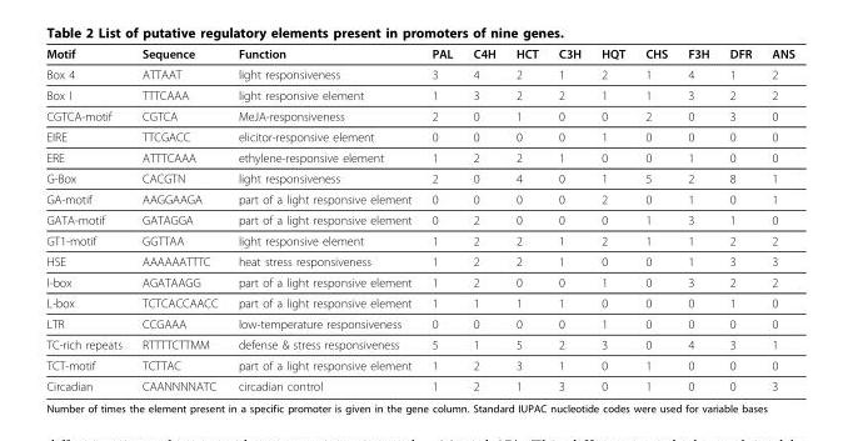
<table><thead><tr><td>Motif</td><td>Sequence</td><td>Function</td><td>PAL</td><td>C4H</td><td>HCT</td><td>C3H</td><td>HQT</td><td>CHS</td><td>F3H</td><td>DFR</td><td>ANS</td></tr></thead><tbody><tr><td>Box 4</td><td>ATTAAT</td><td>light responsiveness</td><td>3</td><td>4</td><td>2</td><td>1</td><td>2</td><td>1</td><td>4</td><td>1</td><td>2</td></tr><tr><td>Box I</td><td>TTTCAAA</td><td>light responsive element</td><td>1</td><td>3</td><td>2</td><td>2</td><td>1</td><td>1</td><td>3</td><td>2</td><td>2</td></tr><tr><td>CGTCA-motif</td><td>CGTCA</td><td>MeJA-responsiveness</td><td>2</td><td>0</td><td>1</td><td>0</td><td>0</td><td>2</td><td>0</td><td>3</td><td>0</td></tr><tr><td>EIRE</td><td>TTCGACC</td><td>elicitor-responsive element</td><td>0</td><td>0</td><td>0</td><td>0</td><td>1</td><td>0</td><td>0</td><td>0</td><td>0</td></tr><tr><td>ERE</td><td>ATTTCAAA</td><td>ethylene-responsive element</td><td>1</td><td>2</td><td>2</td><td>1</td><td>0</td><td>0</td><td>1</td><td>0</td><td>0</td></tr><tr><td>G-Box</td><td>CACGTN</td><td>light responsiveness</td><td>2</td><td>0</td><td>4</td><td>0</td><td>1</td><td>5</td><td>2</td><td>8</td><td>1</td></tr><tr><td>GA-motif</td><td>AAGGAAGA</td><td>part of a light responsive element</td><td>0</td><td>0</td><td>0</td><td>0</td><td>2</td><td>0</td><td>1</td><td>0</td><td>1</td></tr><tr><td>GATA-motif</td><td>GATAGGA</td><td>part of a light responsive element</td><td>0</td><td>2</td><td>0</td><td>0</td><td>0</td><td>1</td><td>3</td><td>1</td><td>0</td></tr><tr><td>GT1-motif</td><td>GGTTAA</td><td>light responsive element</td><td>1</td><td>2</td><td>2</td><td>1</td><td>2</td><td>1</td><td>1</td><td>2</td><td>2</td></tr><tr><td>HSE</td><td>AAAAAATTTC</td><td>heat stress responsiveness</td><td>1</td><td>2</td><td>2</td><td>1</td><td>0</td><td>0</td><td>1</td><td>3</td><td>3</td></tr><tr><td>I-box</td><td>AGATAAGG</td><td>part of a light responsive element</td><td>1</td><td>2</td><td>0</td><td>0</td><td>1</td><td>0</td><td>3</td><td>2</td><td>2</td></tr><tr><td>L-box</td><td>TCTCACCAACC</td><td>part of a light responsive element</td><td>1</td><td>1</td><td>1</td><td>1</td><td>0</td><td>0</td><td>0</td><td>1</td><td>0</td></tr><tr><td>LTR</td><td>CCGAAA</td><td>low-temperature responsiveness</td><td>0</td><td>0</td><td>0</td><td>0</td><td>1</td><td>0</td><td>0</td><td>0</td><td>0</td></tr><tr><td>TC-rich repeats</td><td>RTTTTCTTMM</td><td>defense &amp; stress responsiveness</td><td>5</td><td>1</td><td>5</td><td>2</td><td>3</td><td>0</td><td>4</td><td>3</td><td>1</td></tr><tr><td>TCT-motif</td><td>TCTTAC</td><td>part of a light responsive element</td><td>1</td><td>2</td><td>3</td><td>1</td><td>0</td><td>1</td><td>0</td><td>0</td><td>0</td></tr><tr><td>Circadian</td><td>CAANNNNATC</td><td>circadian control</td><td>1</td><td>2</td><td>1</td><td>3</td><td>0</td><td>1</td><td>0</td><td>0</td><td>3</td></tr></tbody></table>